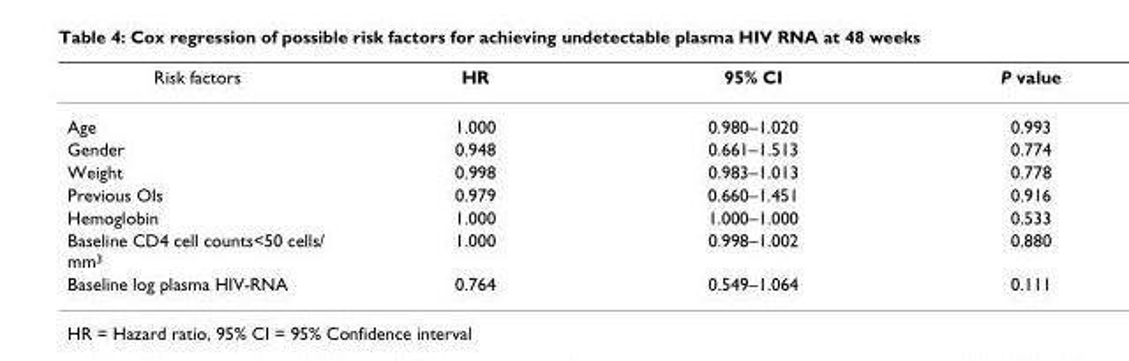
<table><thead><tr><td>Risk factors</td><td>HR</td><td>95% CI</td><td>P value</td></tr></thead><tbody><tr><td>Age</td><td>1.000</td><td>0.980–1.020</td><td>0.993</td></tr><tr><td>Gender</td><td>0.948</td><td>0.661–1.513</td><td>0.774</td></tr><tr><td>Weight</td><td>0.998</td><td>0.983–1.013</td><td>0.778</td></tr><tr><td>Previous OIs</td><td>0.979</td><td>0.660–1.451</td><td>0.916</td></tr><tr><td>Hemoglobin</td><td>1.000</td><td>1.000–1.000</td><td>0.533</td></tr><tr><td>Baseline CD4 cell counts&lt;50 cells/ mm<sup>3</sup></td><td>1.000</td><td>0.998–1.002</td><td>0.880</td></tr><tr><td>Baseline log plasma HIV-RNA</td><td>0.764</td><td>0.549–1.064</td><td>0.111</td></tr></tbody></table>